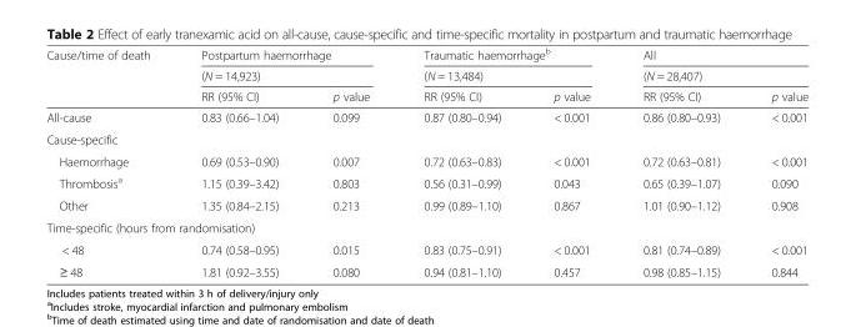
<table><thead><tr><td rowspan="3">Cause/time of death</td><td rowspan="2" colspan="2">Postpartum haemorrhage (N = 14,923)</td><td rowspan="2" colspan="2">Traumatic haemorrhage<sup>b</sup> (N = 13,484)</td><td rowspan="2" colspan="2">All (N = 28,407)</td></tr><tr></tr><tr><td>RR (95% CI)</td><td>p value</td><td>RR (95% CI)</td><td>p value</td><td>RR (95% CI)</td><td>p value</td></tr></thead><tbody><tr><td>All-cause</td><td>0.83 (0.66–1.04)</td><td>0.099</td><td>0.87 (0.80–0.94)</td><td>&lt; 0.001</td><td>0.86 (0.80–0.93)</td><td>&lt; 0.001</td></tr><tr><td colspan="7">Cause-specific</td></tr><tr><td>Haemorrhage</td><td>0.69 (0.53–0.90)</td><td>0.007</td><td>0.72 (0.63–0.83)</td><td>&lt; 0.001</td><td>0.72 (0.63–0.81)</td><td>&lt; 0.001</td></tr><tr><td>Thrombosis<sup>a</sup></td><td>1.15 (0.39–3.42)</td><td>0.803</td><td>0.56 (0.31–0.99)</td><td>0.043</td><td>0.65 (0.39–1.07)</td><td>0.090</td></tr><tr><td>Other</td><td>1.35 (0.84–2.15)</td><td>0.213</td><td>0.99 (0.89–1.10)</td><td>0.867</td><td>1.01 (0.90–1.12)</td><td>0.908</td></tr><tr><td colspan="7">Time-specific (hours from randomisation)</td></tr><tr><td>&lt; 48</td><td>0.74 (0.58–0.95)</td><td>0.015</td><td>0.83 (0.75–0.91)</td><td>&lt; 0.001</td><td>0.81 (0.74–0.89)</td><td>&lt; 0.001</td></tr><tr><td>≥ 48</td><td>1.81 (0.92–3.55)</td><td>0.080</td><td>0.94 (0.81–1.10)</td><td>0.457</td><td>0.98 (0.85–1.15)</td><td>0.844</td></tr></tbody></table>